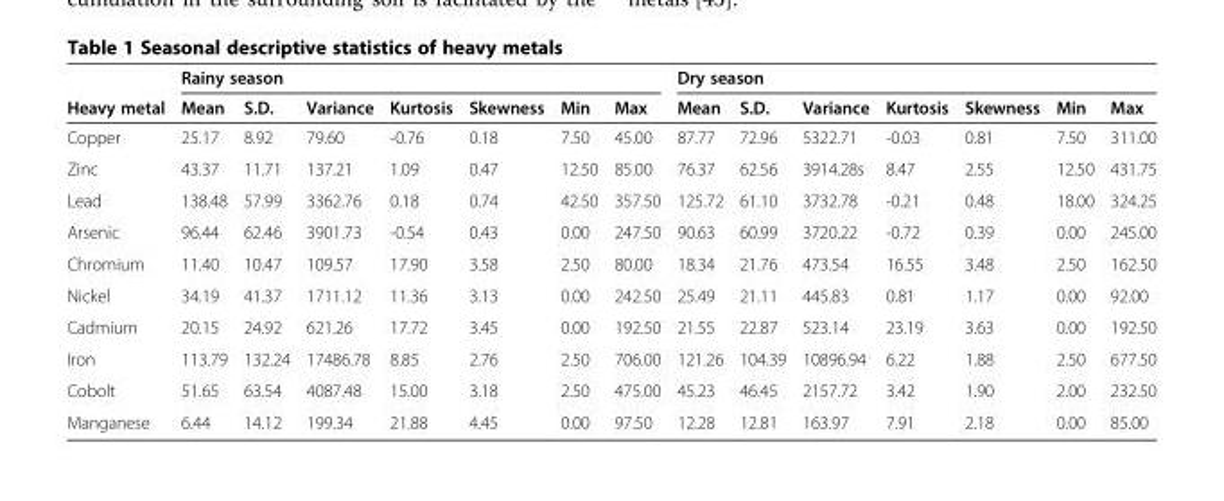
<table><thead><tr><td rowspan="2">Heavy metal</td><td colspan="7">Rainy season</td><td colspan="7">Dry season</td></tr><tr><td>Mean</td><td>S.D.</td><td>Variance</td><td>Kurtosis</td><td>Skewness</td><td>Min</td><td>Max</td><td>Mean</td><td>S.D.</td><td>Variance</td><td>Kurtosis</td><td>Skewness</td><td>Min</td><td>Max</td></tr></thead><tbody><tr><td>Copper</td><td>25.17</td><td>8.92</td><td>79.60</td><td>-0.76</td><td>0.18</td><td>7.50</td><td>45.00</td><td>87.77</td><td>72.96</td><td>5322.71</td><td>-0.03</td><td>0.81</td><td>7.50</td><td>311.00</td></tr><tr><td>Zinc</td><td>43.37</td><td>11.71</td><td>137.21</td><td>1.09</td><td>0.47</td><td>12.50</td><td>85.00</td><td>76.37</td><td>62.56</td><td>3914.28s</td><td>8.47</td><td>2.55</td><td>12.50</td><td>431.75</td></tr><tr><td>Lead</td><td>138.48</td><td>57.99</td><td>3362.76</td><td>0.18</td><td>0.74</td><td>42.50</td><td>357.50</td><td>125.72</td><td>61.10</td><td>3732.78</td><td>-0.21</td><td>0.48</td><td>18.00</td><td>324.25</td></tr><tr><td>Arsenic</td><td>96.44</td><td>62.46</td><td>3901.73</td><td>-0.54</td><td>0.43</td><td>0.00</td><td>247.50</td><td>90.63</td><td>60.99</td><td>3720.22</td><td>-0.72</td><td>0.39</td><td>0.00</td><td>245.00</td></tr><tr><td>Chromium</td><td>11.40</td><td>10.47</td><td>109.57</td><td>17.90</td><td>3.58</td><td>2.50</td><td>80.00</td><td>18.34</td><td>21.76</td><td>473.54</td><td>16.55</td><td>3.48</td><td>2.50</td><td>162.50</td></tr><tr><td>Nickel</td><td>34.19</td><td>41.37</td><td>1711.12</td><td>11.36</td><td>3.13</td><td>0.00</td><td>242.50</td><td>25.49</td><td>21.11</td><td>445.83</td><td>0.81</td><td>1.17</td><td>0.00</td><td>92.00</td></tr><tr><td>Cadmium</td><td>20.15</td><td>24.92</td><td>621.26</td><td>17.72</td><td>3.45</td><td>0.00</td><td>192.50</td><td>21.55</td><td>22.87</td><td>523.14</td><td>23.19</td><td>3.63</td><td>0.00</td><td>192.50</td></tr><tr><td>Iron</td><td>113.79</td><td>132.24</td><td>17486.78</td><td>8.85</td><td>2.76</td><td>2.50</td><td>706.00</td><td>121.26</td><td>104.39</td><td>10896.94</td><td>6.22</td><td>1.88</td><td>2.50</td><td>677.50</td></tr><tr><td>Cobolt</td><td>51.65</td><td>63.54</td><td>4087.48</td><td>15.00</td><td>3.18</td><td>2.50</td><td>475.00</td><td>45.23</td><td>46.45</td><td>2157.72</td><td>3.42</td><td>1.90</td><td>2.00</td><td>232.50</td></tr><tr><td>Manganese</td><td>6.44</td><td>14.12</td><td>199.34</td><td>21.88</td><td>4.45</td><td>0.00</td><td>97.50</td><td>12.28</td><td>12.81</td><td>163.97</td><td>7.91</td><td>2.18</td><td>0.00</td><td>85.00</td></tr></tbody></table>